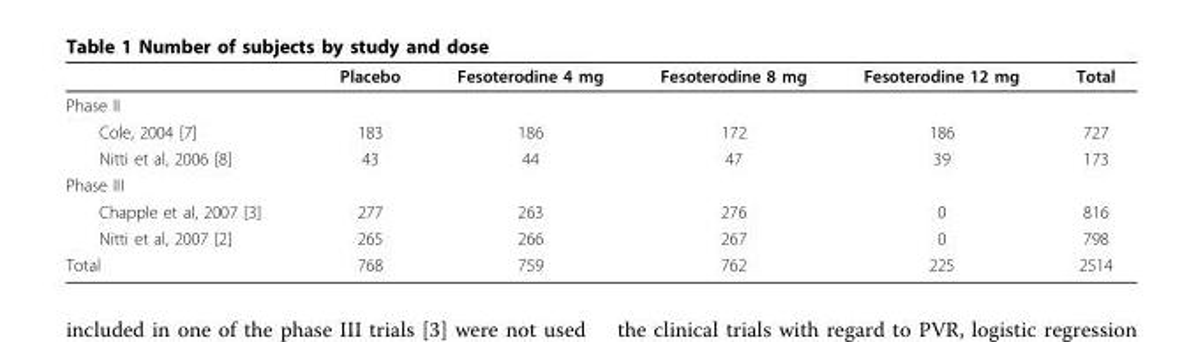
<table><thead><tr><td></td><td>Placebo</td><td>Fesoterodine 4 mg</td><td>Fesoterodine 8 mg</td><td>Fesoterodine 12 mg</td><td>Total</td></tr></thead><tbody><tr><td colspan="6">Phase II</td></tr><tr><td>Cole, 2004 [7]</td><td>183</td><td>186</td><td>172</td><td>186</td><td>727</td></tr><tr><td>Nitti et al, 2006 [8]</td><td>43</td><td>44</td><td>47</td><td>39</td><td>173</td></tr><tr><td colspan="6">Phase III</td></tr><tr><td>Chapple et al, 2007 [3]</td><td>277</td><td>263</td><td>276</td><td>0</td><td>816</td></tr><tr><td>Nitti et al, 2007 [2]</td><td>265</td><td>266</td><td>267</td><td>0</td><td>798</td></tr><tr><td>Total</td><td>768</td><td>759</td><td>762</td><td>225</td><td>2514</td></tr></tbody></table>